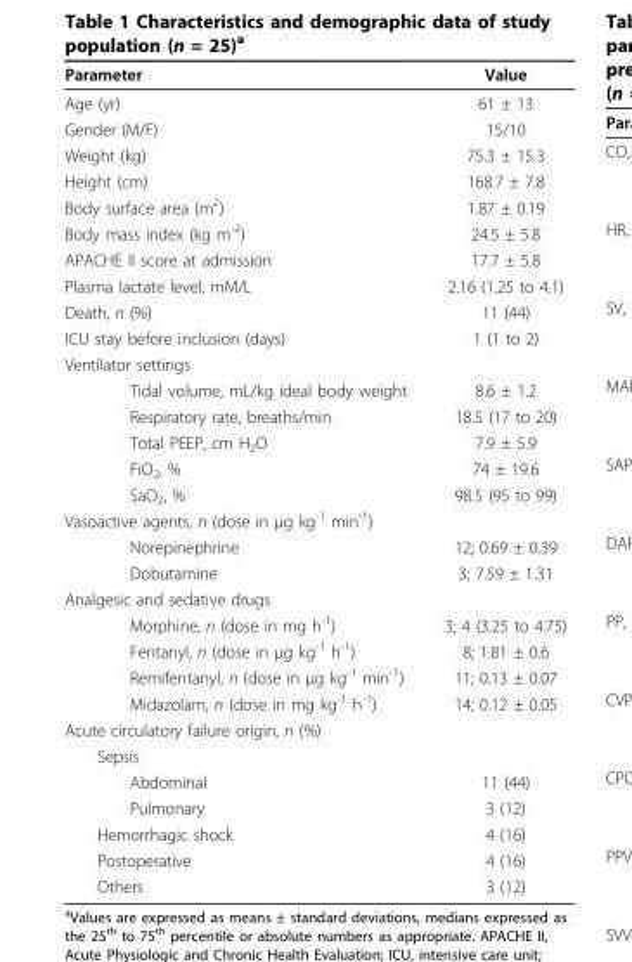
<table><thead><tr><td>Parameter</td><td>Value</td></tr></thead><tbody><tr><td>Age (yr)</td><td>61 ± 13</td></tr><tr><td>Gender (M/F)</td><td>15/10</td></tr><tr><td>Weight (kg)</td><td>75.3 ± 15.3</td></tr><tr><td>Height (cm)</td><td>168.7 ± 7.8</td></tr><tr><td>Body surface area (m<sup>2</sup>)</td><td>1.87 ± 0.19</td></tr><tr><td>Body mass index (kg m<sup>-2</sup>)</td><td>24.5 ± 5.8</td></tr><tr><td>APACHE II score at admission</td><td>17.7 ± 5.8</td></tr><tr><td>Plasma lactate level, mM/L</td><td>2.16 (1.25 to 4.1)</td></tr><tr><td>Death, n (%)</td><td>11 (44)</td></tr><tr><td>ICU stay before inclusion (days)</td><td>1 (1 to 2)</td></tr><tr><td colspan="2">Ventilator settings</td></tr><tr><td>Tidal volume, mL/kg ideal body weight</td><td>8.6 ± 1.2</td></tr><tr><td>Respiratory rate, breaths/min</td><td>18.5 (17 to 20)</td></tr><tr><td>Total PEEP, cm H<sub>2</sub>O</td><td>7.9 ± 5.9</td></tr><tr><td>FiO<sub>2</sub>, %</td><td>74 ± 19.6</td></tr><tr><td>SaO<sub>2</sub>, %</td><td>98.5 (95 to 99)</td></tr><tr><td colspan="2">Vasoactive agents, n (dose in μg kg<sup>-1</sup> min<sup>-1</sup>)</td></tr><tr><td>Norepinephrine</td><td>12; 0.69 ± 0.39</td></tr><tr><td>Dobutamine</td><td>3; 7.59 ± 1.31</td></tr><tr><td colspan="2">Analgesic and sedative drugs</td></tr><tr><td>Morphine, n (dose in mg h<sup>-1</sup>)</td><td>3; 4 (3.25 to 4.75)</td></tr><tr><td>Fentanyl, n (dose in μg kg<sup>-1</sup> h<sup>-1</sup>)</td><td>8; 1.81 ± 0.6</td></tr><tr><td>Remifentanyl, n (dose in μg kg<sup>-1</sup> min<sup>-1</sup>)</td><td>11; 0.13 ± 0.07</td></tr><tr><td>Midazolam, n (dose in mg kg<sup>-1</sup> h<sup>-1</sup>)</td><td>14; 0.12 ± 0.05</td></tr><tr><td colspan="2">Acute circulatory failure origin, n (%)</td></tr><tr><td colspan="2">Sepsis</td></tr><tr><td>Abdominal</td><td>11 (44)</td></tr><tr><td>Pulmonary</td><td>3 (12)</td></tr><tr><td>Hemorrhagic shock</td><td>4 (16)</td></tr><tr><td>Postoperative</td><td>4 (16)</td></tr><tr><td>Others</td><td>3 (12)</td></tr></tbody></table>